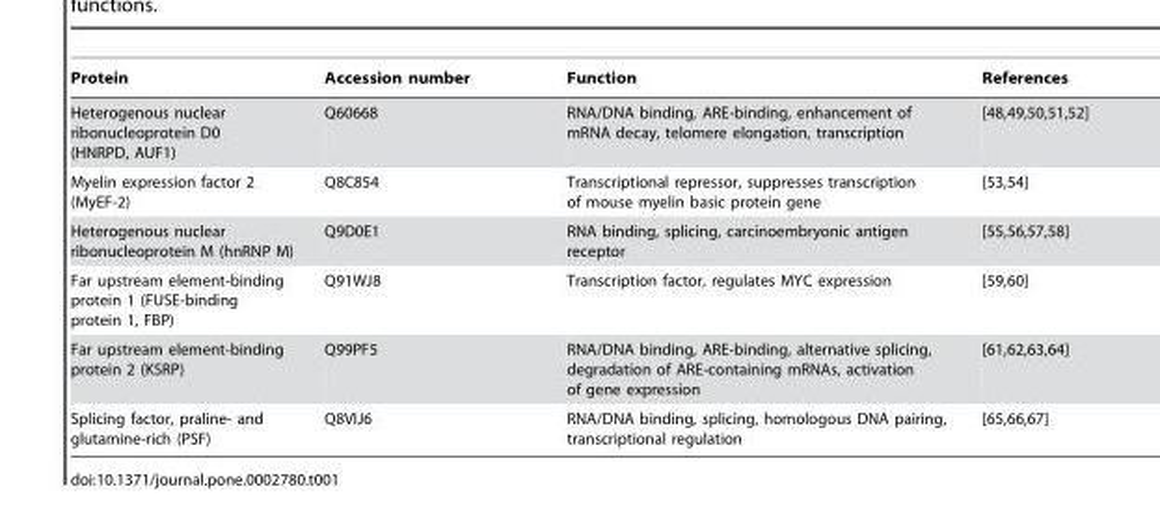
<table><thead><tr><td>Protein</td><td>Accession number</td><td>Function</td><td>References</td></tr></thead><tbody><tr><td>Heterogenous nuclear ribonucleoprotein D0 (HNRPD, AUF1)</td><td>Q60668</td><td>RNA/DNA binding, ARE-binding, enhancement of mRNA decay, telomere elongation, transcription</td><td>[48,49,50,51,52]</td></tr><tr><td>Myelin expression factor 2 (MyEF-2)</td><td>Q8C854</td><td>Transcriptional repressor, suppresses transcription of mouse myelin basic protein gene</td><td>[53,54]</td></tr><tr><td>Heterogenous nuclear ribonucleoprotein M (hnRNP M)</td><td>Q9D0E1</td><td>RNA binding, splicing, carcinoembryonic antigen receptor</td><td>[55,56,57,58]</td></tr><tr><td>Far upstream element-binding protein 1 (FUSE-binding protein 1, FBP)</td><td>Q91WJ8</td><td>Transcription factor, regulates MYC expression</td><td>[59,60]</td></tr><tr><td>Far upstream element-binding protein 2 (KSRP)</td><td>Q99PF5</td><td>RNA/DNA binding, ARE-binding, alternative splicing, degradation of ARE-containing mRNAs, activation of gene expression</td><td>[61,62,63,64]</td></tr><tr><td>Splicing factor, praline- and glutamine-rich (PSF)</td><td>Q8VIJ6</td><td>RNA/DNA binding, splicing, homologous DNA pairing, transcriptional regulation</td><td>[65,66,67]</td></tr></tbody></table>